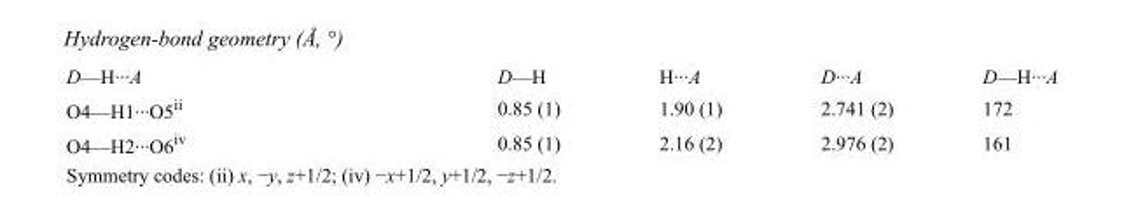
<table><tbody><tr><td>D—H···A</td><td>D—H</td><td>H···A</td><td>D···A</td><td>D—H···A</td></tr><tr><td>O4—H1···O5<sup>ii</sup></td><td>0.85 (1)</td><td>1.90 (1)</td><td>2.741 (2)</td><td>172</td></tr><tr><td>O4—H2···O6<sup>iv</sup></td><td>0.85 (1)</td><td>2.16 (2)</td><td>2.976 (2)</td><td>161</td></tr></tbody></table>